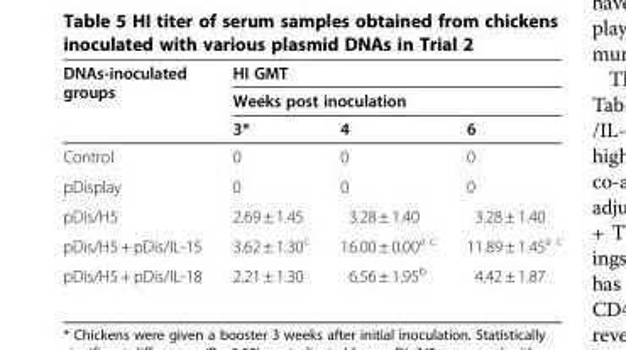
<table><thead><tr><td rowspan="3">DNAs-inoculated groups</td><td rowspan="2" colspan="3">HI GMT Weeks post inoculation</td></tr><tr></tr><tr><td>3*</td><td>4</td><td>6</td></tr></thead><tbody><tr><td>Control</td><td>0</td><td>0</td><td>0</td></tr><tr><td>pDisplay</td><td>0</td><td>0</td><td>0</td></tr><tr><td>pDis/H5</td><td>2.69 ± 1.45</td><td>3.28 ± 1.40</td><td>3.28 ± 1.40</td></tr><tr><td>pDis/H5 + pDis/IL-15</td><td>3.62 ± 1.30<sup>c</sup></td><td>16.00 ± 0.00<sup>a c</sup></td><td>11.89 ± 1.45<sup>a c</sup></td></tr><tr><td>pDis/H5 + pDis/IL-18</td><td>2.21 ± 1.30</td><td>6.56 ± 1.95<sup>b</sup></td><td>4.42 ± 1.87</td></tr></tbody></table>